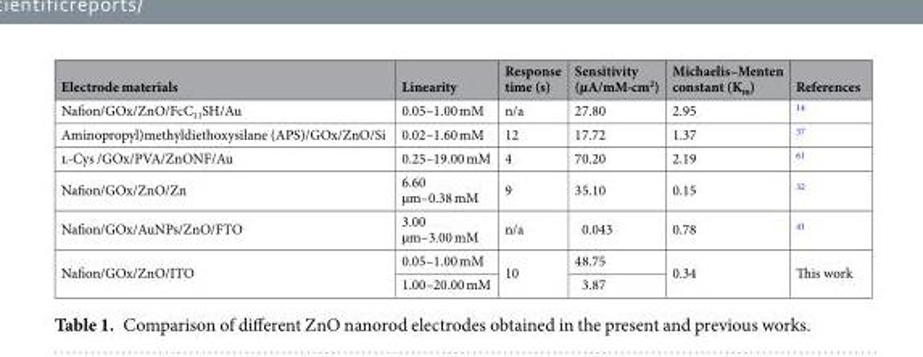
<table><thead><tr><td>Electrode materials</td><td>Linearity</td><td>Response time (s)</td><td>Sensitivity (µA/mM·cm<sup>2</sup>)</td><td>Michaelis–Menten constant (K<sub>m</sub>)</td><td>References</td></tr></thead><tbody><tr><td>Nafion/GOx/ZnO/FcC<sub>11</sub>SH/Au</td><td>0.05–1.00 mM</td><td>n/a</td><td>27.80</td><td>2.95</td><td><sup>14</sup></td></tr><tr><td>Aminopropyl)methyldiethoxysilane (APS)/GOx/ZnO/Si</td><td>0.02–1.60 mM</td><td>12</td><td>17.72</td><td>1.37</td><td><sup>37</sup></td></tr><tr><td>l-Cys /GOx/PVA/ZnONF/Au</td><td>0.25–19.00 mM</td><td>4</td><td>70.20</td><td>2.19</td><td><sup>61</sup></td></tr><tr><td>Nafion/GOx/ZnO/Zn</td><td>6.60 µm–0.38 mM</td><td>9</td><td>35.10</td><td>0.15</td><td><sup>32</sup></td></tr><tr><td>Nafion/GOx/AuNPs/ZnO/FTO</td><td>3.00 µm–3.00 mM</td><td>n/a</td><td>0.043</td><td>0.78</td><td><sup>41</sup></td></tr><tr><td rowspan="2">Nafion/GOx/ZnO/ITO</td><td>0.05–1.00 mM</td><td rowspan="2">10</td><td>48.75</td><td rowspan="2">0.34</td><td rowspan="2">This work</td></tr><tr><td>1.00–20.00 mM</td><td>3.87</td></tr></tbody></table>